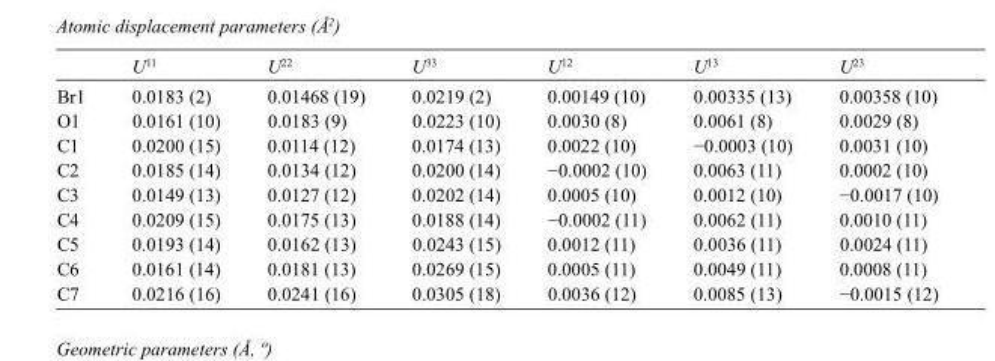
<table><thead><tr><td></td><td>U<sup>11</sup></td><td>U<sup>22</sup></td><td>U<sup>33</sup></td><td>U<sup>12</sup></td><td>U<sup>13</sup></td><td>U<sup>23</sup></td></tr></thead><tbody><tr><td>Br1</td><td>0.0183 (2)</td><td>0.01468 (19)</td><td>0.0219 (2)</td><td>0.00149 (10)</td><td>0.00335 (13)</td><td>0.00358 (10)</td></tr><tr><td>O1</td><td>0.0161 (10)</td><td>0.0183 (9)</td><td>0.0223 (10)</td><td>0.0030 (8)</td><td>0.0061 (8)</td><td>0.0029 (8)</td></tr><tr><td>C1</td><td>0.0200 (15)</td><td>0.0114 (12)</td><td>0.0174 (13)</td><td>0.0022 (10)</td><td>−0.0003 (10)</td><td>0.0031 (10)</td></tr><tr><td>C2</td><td>0.0185 (14)</td><td>0.0134 (12)</td><td>0.0200 (14)</td><td>−0.0002 (10)</td><td>0.0063 (11)</td><td>0.0002 (10)</td></tr><tr><td>C3</td><td>0.0149 (13)</td><td>0.0127 (12)</td><td>0.0202 (14)</td><td>0.0005 (10)</td><td>0.0012 (10)</td><td>−0.0017 (10)</td></tr><tr><td>C4</td><td>0.0209 (15)</td><td>0.0175 (13)</td><td>0.0188 (14)</td><td>−0.0002 (11)</td><td>0.0062 (11)</td><td>0.0010 (11)</td></tr><tr><td>C5</td><td>0.0193 (14)</td><td>0.0162 (13)</td><td>0.0243 (15)</td><td>0.0012 (11)</td><td>0.0036 (11)</td><td>0.0024 (11)</td></tr><tr><td>C6</td><td>0.0161 (14)</td><td>0.0181 (13)</td><td>0.0269 (15)</td><td>0.0005 (11)</td><td>0.0049 (11)</td><td>0.0008 (11)</td></tr><tr><td>C7</td><td>0.0216 (16)</td><td>0.0241 (16)</td><td>0.0305 (18)</td><td>0.0036 (12)</td><td>0.0085 (13)</td><td>−0.0015 (12)</td></tr></tbody></table>